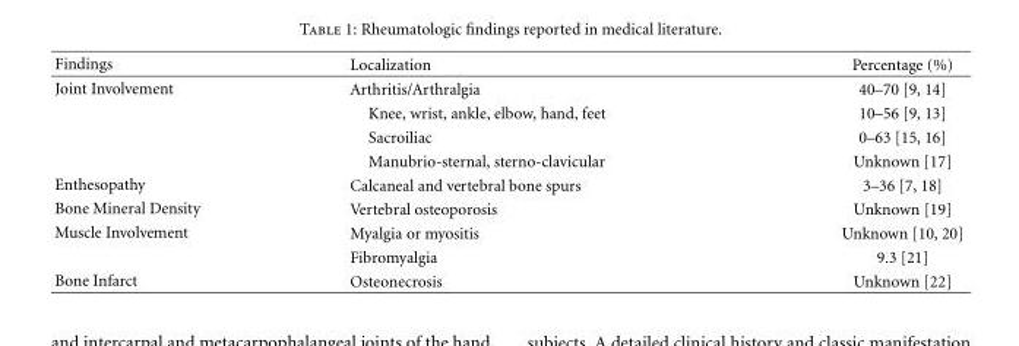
<table><thead><tr><td>Findings</td><td>Localization</td><td>Percentage (%)</td></tr></thead><tbody><tr><td rowspan="4">Joint Involvement</td><td>Arthritis/Arthralgia</td><td>40–70 [9, 14]</td></tr><tr><td>Knee, wrist, ankle, elbow, hand, feet</td><td>10–56 [9, 13]</td></tr><tr><td>Sacroiliac</td><td>0–63 [15, 16]</td></tr><tr><td>Manubrio-sternal, sterno-clavicular</td><td>Unknown [17]</td></tr><tr><td>Enthesopathy</td><td>Calcaneal and vertebral bone spurs</td><td>3–36 [7, 18]</td></tr><tr><td>Bone Mineral Density</td><td>Vertebral osteoporosis</td><td>Unknown [19]</td></tr><tr><td rowspan="2">Muscle Involvement</td><td>Myalgia or myositis</td><td>Unknown [10, 20]</td></tr><tr><td>Fibromyalgia</td><td>9.3 [21]</td></tr><tr><td>Bone Infarct</td><td>Osteonecrosis</td><td>Unknown [22]</td></tr></tbody></table>